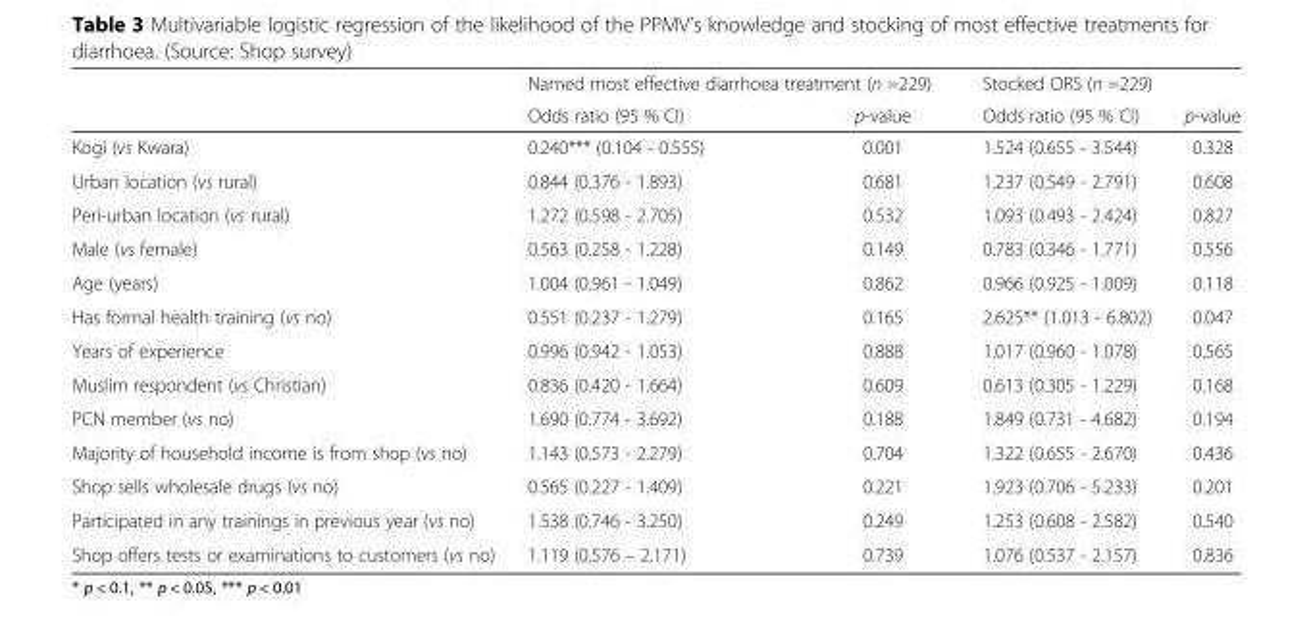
<table><thead><tr><td rowspan="2"></td><td colspan="2">Named most effective diarrhoea treatment (n =229)</td><td colspan="2">Stocked ORS (n =229)</td></tr><tr><td>Odds ratio (95 % CI)</td><td>p-value</td><td>Odds ratio (95 % CI)</td><td>p-value</td></tr></thead><tbody><tr><td>Kogi (vs Kwara)</td><td>0.240*** (0.104 - 0.555)</td><td>0.001</td><td>1.524 (0.655 - 3.544)</td><td>0.328</td></tr><tr><td>Urban location (vs rural)</td><td>0.844 (0.376 - 1.893)</td><td>0.681</td><td>1.237 (0.549 - 2.791)</td><td>0.608</td></tr><tr><td>Peri-urban location (vs rural)</td><td>1.272 (0.598 - 2.705)</td><td>0.532</td><td>1.093 (0.493 - 2.424)</td><td>0.827</td></tr><tr><td>Male (vs female)</td><td>0.563 (0.258 - 1.228)</td><td>0.149</td><td>0.783 (0.346 - 1.771)</td><td>0.556</td></tr><tr><td>Age (years)</td><td>1.004 (0.961 - 1.049)</td><td>0.862</td><td>0.966 (0.925 - 1.009)</td><td>0.118</td></tr><tr><td>Has formal health training (vs no)</td><td>0.551 (0.237 - 1.279)</td><td>0.165</td><td>2.625** (1.013 - 6.802)</td><td>0.047</td></tr><tr><td>Years of experience</td><td>0.996 (0.942 - 1.053)</td><td>0.888</td><td>1.017 (0.960 - 1.078)</td><td>0.565</td></tr><tr><td>Muslim respondent (vs Christian)</td><td>0.836 (0.420 - 1.664)</td><td>0.609</td><td>0.613 (0.305 - 1.229)</td><td>0.168</td></tr><tr><td>PCN member (vs no)</td><td>1.690 (0.774 - 3.692)</td><td>0.188</td><td>1.849 (0.731 - 4.682)</td><td>0.194</td></tr><tr><td>Majority of household income is from shop (vs no)</td><td>1.143 (0.573 - 2.279)</td><td>0.704</td><td>1.322 (0.655 - 2.670)</td><td>0.436</td></tr><tr><td>Shop sells wholesale drugs (vs no)</td><td>0.565 (0.227 - 1.409)</td><td>0.221</td><td>1.923 (0.706 - 5.233)</td><td>0.201</td></tr><tr><td>Participated in any trainings in previous year (vs no)</td><td>1.538 (0.746 - 3.250)</td><td>0.249</td><td>1.253 (0.608 - 2.582)</td><td>0.540</td></tr><tr><td>Shop offers tests or examinations to customers (vs no)</td><td>1.119 (0.576 – 2.171)</td><td>0.739</td><td>1.076 (0.537 - 2.157)</td><td>0.836</td></tr></tbody></table>